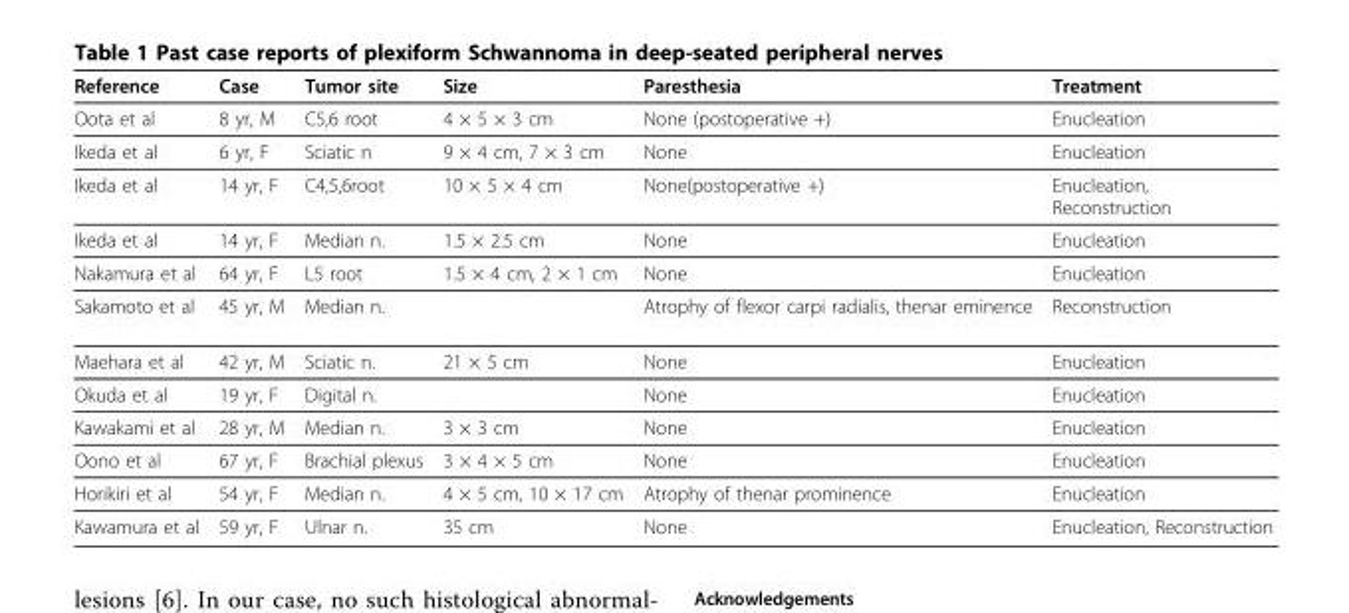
<table><thead><tr><td>Reference</td><td>Case</td><td>Tumor site</td><td>Size</td><td>Paresthesia</td><td>Treatment</td></tr></thead><tbody><tr><td>Oota et al</td><td>8 yr, M</td><td>C5,6 root</td><td>4 × 5 × 3 cm</td><td>None (postoperative +)</td><td>Enucleation</td></tr><tr><td>Ikeda et al</td><td>6 yr, F</td><td>Sciatic n</td><td>9 × 4 cm, 7 × 3 cm</td><td>None</td><td>Enucleation</td></tr><tr><td>Ikeda et al</td><td>14 yr, F</td><td>C4,5,6root</td><td>10 × 5 × 4 cm</td><td>None(postoperative +)</td><td>Enucleation, Reconstruction</td></tr><tr><td>Ikeda et al</td><td>14 yr, F</td><td>Median n.</td><td>1.5 × 2.5 cm</td><td>None</td><td>Enucleation</td></tr><tr><td>Nakamura et al</td><td>64 yr, F</td><td>L5 root</td><td>1.5 × 4 cm, 2 × 1 cm</td><td>None</td><td>Enucleation</td></tr><tr><td>Sakamoto et al</td><td>45 yr, M</td><td>Median n.</td><td></td><td>Atrophy of flexor carpi radialis, thenar eminence</td><td>Reconstruction</td></tr><tr><td>Maehara et al</td><td>42 yr, M</td><td>Sciatic n.</td><td>21 × 5 cm</td><td>None</td><td>Enucleation</td></tr><tr><td>Okuda et al</td><td>19 yr, F</td><td>Digital n.</td><td></td><td>None</td><td>Enucleation</td></tr><tr><td>Kawakami et al</td><td>28 yr, M</td><td>Median n.</td><td>3 × 3 cm</td><td>None</td><td>Enucleation</td></tr><tr><td>Oono et al</td><td>67 yr, F</td><td>Brachial plexus</td><td>3 × 4 × 5 cm</td><td>None</td><td>Enucleation</td></tr><tr><td>Horikiri et al</td><td>54 yr, F</td><td>Median n.</td><td>4 × 5 cm, 10 × 17 cm</td><td>Atrophy of thenar prominence</td><td>Enucleation</td></tr><tr><td>Kawamura et al</td><td>59 yr, F</td><td>Ulnar n.</td><td>35 cm</td><td>None</td><td>Enucleation, Reconstruction</td></tr></tbody></table>